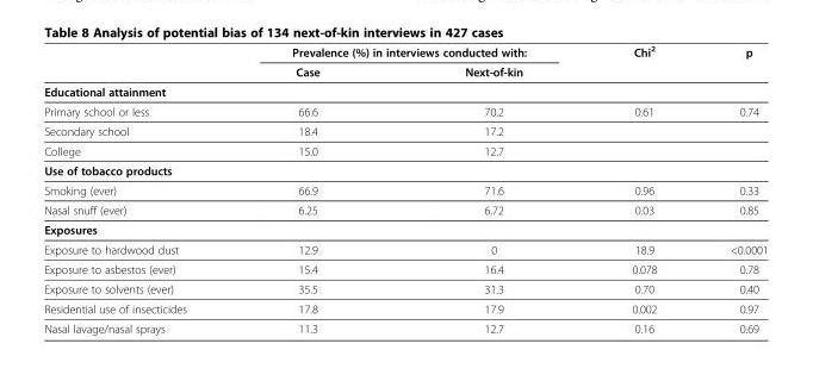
<table><thead><tr><td rowspan="2"></td><td colspan="2">Prevalence (%) in interviews conducted with:</td><td rowspan="2">Chi<sup>2</sup></td><td rowspan="2">p</td></tr><tr><td>Case</td><td>Next-of-kin</td></tr></thead><tbody><tr><td colspan="5">Educational attainment</td></tr><tr><td>Primary school or less</td><td>66.6</td><td>70.2</td><td>0.61</td><td>0.74</td></tr><tr><td>Secondary school</td><td>18.4</td><td>17.2</td><td></td><td></td></tr><tr><td>College</td><td>15.0</td><td>12.7</td><td></td><td></td></tr><tr><td colspan="5">Use of tobacco products</td></tr><tr><td>Smoking (ever)</td><td>66.9</td><td>71.6</td><td>0.96</td><td>0.33</td></tr><tr><td>Nasal snuff (ever)</td><td>6.25</td><td>6.72</td><td>0.03</td><td>0.85</td></tr><tr><td colspan="5">Exposures</td></tr><tr><td>Exposure to hardwood dust</td><td>12.9</td><td>0</td><td>18.9</td><td>&lt;0.0001</td></tr><tr><td>Exposure to asbestos (ever)</td><td>15.4</td><td>16.4</td><td>0.078</td><td>0.78</td></tr><tr><td>Exposure to solvents (ever)</td><td>35.5</td><td>31.3</td><td>0.70</td><td>0.40</td></tr><tr><td>Residential use of insecticides</td><td>17.8</td><td>17.9</td><td>0.002</td><td>0.97</td></tr><tr><td>Nasal lavage/nasal sprays</td><td>11.3</td><td>12.7</td><td>0.16</td><td>0.69</td></tr></tbody></table>